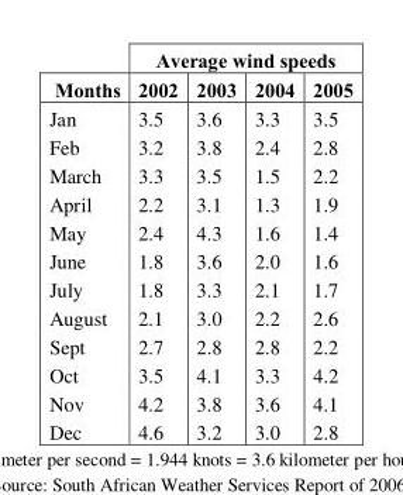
<table><thead><tr><td rowspan="2">Months</td><td colspan="4">Average wind speeds</td></tr><tr><td>2002</td><td>2003</td><td>2004</td><td>2005</td></tr></thead><tbody><tr><td>Jan</td><td>3.5</td><td>3.6</td><td>3.3</td><td>3.5</td></tr><tr><td>Feb</td><td>3.2</td><td>3.8</td><td>2.4</td><td>2.8</td></tr><tr><td>March</td><td>3.3</td><td>3.5</td><td>1.5</td><td>2.2</td></tr><tr><td>April</td><td>2.2</td><td>3.1</td><td>1.3</td><td>1.9</td></tr><tr><td>May</td><td>2.4</td><td>4.3</td><td>1.6</td><td>1.4</td></tr><tr><td>June</td><td>1.8</td><td>3.6</td><td>2.0</td><td>1.6</td></tr><tr><td>July</td><td>1.8</td><td>3.3</td><td>2.1</td><td>1.7</td></tr><tr><td>August</td><td>2.1</td><td>3.0</td><td>2.2</td><td>2.6</td></tr><tr><td>Sept</td><td>2.7</td><td>2.8</td><td>2.8</td><td>2.2</td></tr><tr><td>Oct</td><td>3.5</td><td>4.1</td><td>3.3</td><td>4.2</td></tr><tr><td>Nov</td><td>4.2</td><td>3.8</td><td>3.6</td><td>4.1</td></tr><tr><td>Dec</td><td>4.6</td><td>3.2</td><td>3.0</td><td>2.8</td></tr></tbody></table>